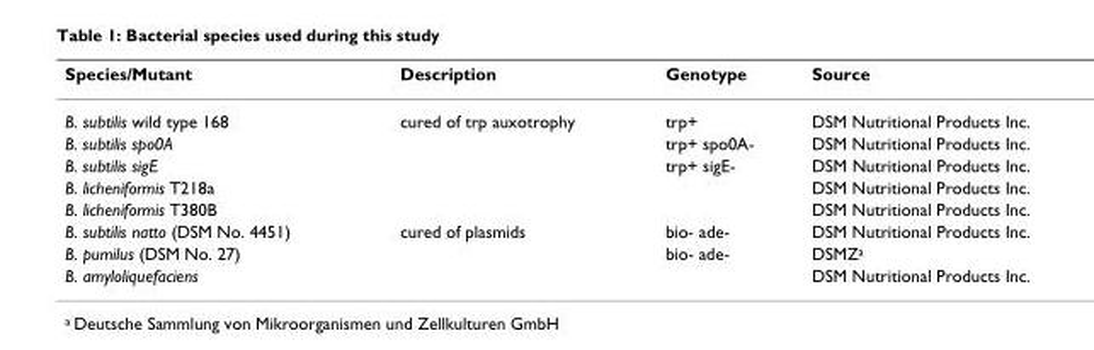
<table><thead><tr><td>Species/Mutant</td><td>Description</td><td>Genotype</td><td>Source</td></tr></thead><tbody><tr><td>B. subtilis wild type 168</td><td>cured of trp auxotrophy</td><td>trp+</td><td>DSM Nutritional Products Inc.</td></tr><tr><td>B. subtilis spo0A</td><td></td><td>trp+ spo0A-</td><td>DSM Nutritional Products Inc.</td></tr><tr><td>B. subtilis sigE</td><td></td><td>trp+ sigE-</td><td>DSM Nutritional Products Inc.</td></tr><tr><td>B. licheniformis T218a</td><td></td><td></td><td>DSM Nutritional Products Inc.</td></tr><tr><td>B. licheniformis T380B</td><td></td><td></td><td>DSM Nutritional Products Inc.</td></tr><tr><td>B. subtilis natto (DSM No. 4451)</td><td>cured of plasmids</td><td>bio- ade-</td><td>DSM Nutritional Products Inc.</td></tr><tr><td>B. pumilus (DSM No. 27)</td><td></td><td>bio- ade-</td><td>DSMZ<sup>a</sup></td></tr><tr><td>B. amyloliquefaciens</td><td></td><td></td><td>DSM Nutritional Products Inc.</td></tr></tbody></table>